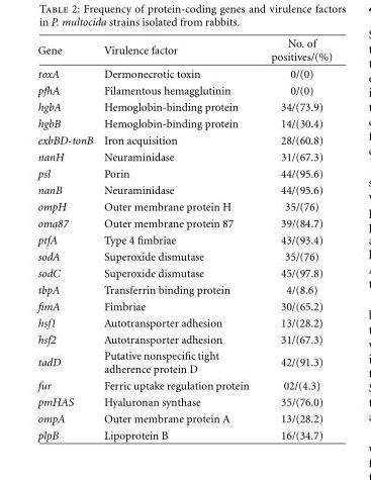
<table><thead><tr><td>Gene</td><td>Virulence factor</td><td>No. of positives/(%)</td></tr></thead><tbody><tr><td>toxA</td><td>Dermonecrotic toxin</td><td>0/(0)</td></tr><tr><td>pfhA</td><td>Filamentous hemagglutinin</td><td>0/(0)</td></tr><tr><td>hgbA</td><td>Hemoglobin-binding protein</td><td>34/(73.9)</td></tr><tr><td>hgbB</td><td>Hemoglobin-binding protein</td><td>14/(30.4)</td></tr><tr><td>exbBD-tonB</td><td>Iron acquisition</td><td>28/(60.8)</td></tr><tr><td>nanH</td><td>Neuraminidase</td><td>31/(67.3)</td></tr><tr><td>psl</td><td>Porin</td><td>44/(95.6)</td></tr><tr><td>nanB</td><td>Neuraminidase</td><td>44/(95.6)</td></tr><tr><td>ompH</td><td>Outer membrane protein H</td><td>35/(76)</td></tr><tr><td>oma87</td><td>Outer membrane protein 87</td><td>39/(84.7)</td></tr><tr><td>ptfA</td><td>Type 4 fimbriae</td><td>43/(93.4)</td></tr><tr><td>sodA</td><td>Superoxide dismutase</td><td>35/(76)</td></tr><tr><td>sodC</td><td>Superoxide dismutase</td><td>45/(97.8)</td></tr><tr><td>tbpA</td><td>Transferrin binding protein</td><td>4/(8.6)</td></tr><tr><td>fimA</td><td>Fimbriae</td><td>30/(65.2)</td></tr><tr><td>hsf1</td><td>Autotransporter adhesion</td><td>13/(28.2)</td></tr><tr><td>hsf2</td><td>Autotransporter adhesion</td><td>31/(67.3)</td></tr><tr><td>tadD</td><td>Putative nonspecific tight adherence protein D</td><td>42/(91.3)</td></tr><tr><td>fur</td><td>Ferric uptake regulation protein</td><td>02/(4.3)</td></tr><tr><td>pmHAS</td><td>Hyaluronan synthase</td><td>35/(76.0)</td></tr><tr><td>ompA</td><td>Outer membrane protein A</td><td>13/(28.2)</td></tr><tr><td>plpB</td><td>Lipoprotein B</td><td>16/(34.7)</td></tr></tbody></table>